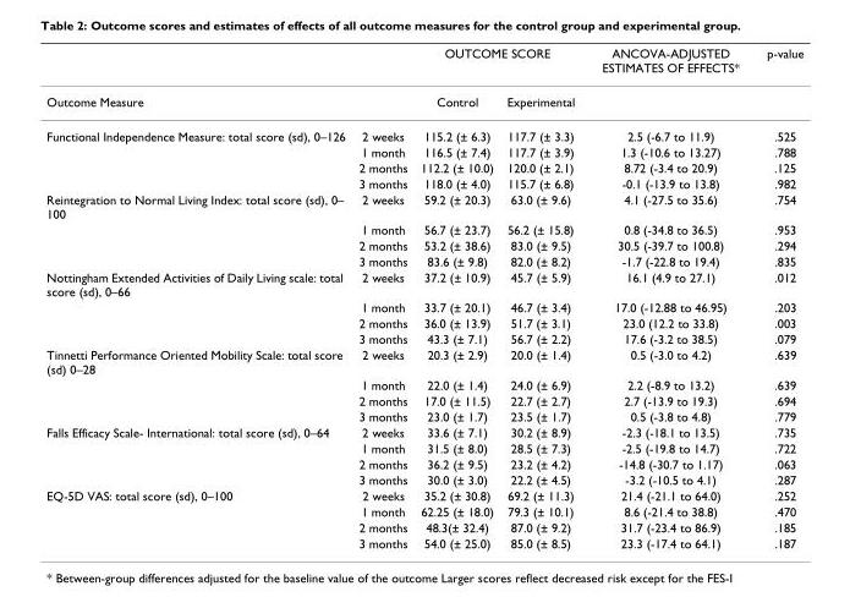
<table><thead><tr><td rowspan="2">Outcome Measure</td><td rowspan="2"></td><td colspan="2">OUTCOME SCORE</td><td rowspan="2">ANCOVA-ADJUSTED ESTIMATES OF EFFECTS*</td><td rowspan="2">p-value</td></tr><tr><td>Control</td><td>Experimental</td></tr></thead><tbody><tr><td rowspan="4">Functional Independence Measure: total score (sd), 0–126</td><td>2 weeks</td><td>115.2 (± 6.3)</td><td>117.7 (± 3.3)</td><td>2.5 (-6.7 to 11.9)</td><td>.525</td></tr><tr><td>1 month</td><td>116.5 (± 7.4)</td><td>117.7 (± 3.9)</td><td>1.3 (-10.6 to 13.27)</td><td>.788</td></tr><tr><td>2 months</td><td>112.2 (± 10.0)</td><td>120.0 (± 2.1)</td><td>8.72 (-3.4 to 20.9)</td><td>.125</td></tr><tr><td>3 months</td><td>118.0 (± 4.0)</td><td>115.7 (± 6.8)</td><td>-0.1 (-13.9 to 13.8)</td><td>.982</td></tr><tr><td rowspan="4">Reintegration to Normal Living Index: total score (sd), 0– 100</td><td>2 weeks</td><td>59.2 (± 20.3)</td><td>63.0 (± 9.6)</td><td>4.1 (-27.5 to 35.6)</td><td>.754</td></tr><tr><td>1 month</td><td>56.7 (± 23.7)</td><td>56.2 (± 15.8)</td><td>0.8 (-34.8 to 36.5)</td><td>.953</td></tr><tr><td>2 months</td><td>53.2 (± 38.6)</td><td>83.0 (± 9.5)</td><td>30.5 (-39.7 to 100.8)</td><td>.294</td></tr><tr><td>3 months</td><td>83.6 (± 9.8)</td><td>82.0 (± 8.2)</td><td>-1.7 (-22.8 to 19.4)</td><td>.835</td></tr><tr><td rowspan="4">Nottingham Extended Activities of Daily Living scale: total score (sd), 0–66</td><td>2 weeks</td><td>37.2 (± 10.9)</td><td>45.7 (± 5.9)</td><td>16.1 (4.9 to 27.1)</td><td>.012</td></tr><tr><td>1 month</td><td>33.7 (± 20.1)</td><td>46.7 (± 3.4)</td><td>17.0 (-12.88 to 46.95)</td><td>.203</td></tr><tr><td>2 months</td><td>36.0 (± 13.9)</td><td>51.7 (± 3.1)</td><td>23.0 (12.2 to 33.8)</td><td>.003</td></tr><tr><td>3 months</td><td>43.3 (± 7.1)</td><td>56.7 (± 2.2)</td><td>17.6 (-3.2 to 38.5)</td><td>.079</td></tr><tr><td rowspan="4">Tinnetti Performance Oriented Mobility Scale: total score (sd) 0–28</td><td>2 weeks</td><td>20.3 (± 2.9)</td><td>20.0 (± 1.4)</td><td>0.5 (-3.0 to 4.2)</td><td>.639</td></tr><tr><td>1 month</td><td>22.0 (± 1.4)</td><td>24.0 (± 6.9)</td><td>2.2 (-8.9 to 13.2)</td><td>.639</td></tr><tr><td>2 months</td><td>17.0 (± 11.5)</td><td>22.7 (± 2.7)</td><td>2.7 (-13.9 to 19.3)</td><td>.694</td></tr><tr><td>3 months</td><td>23.0 (± 1.7)</td><td>23.5 (± 1.7)</td><td>0.5 (-3.8 to 4.8)</td><td>.779</td></tr><tr><td rowspan="4">Falls Efficacy Scale- International: total score (sd), 0–64</td><td>2 weeks</td><td>33.6 (± 7.1)</td><td>30.2 (± 8.9)</td><td>-2.3 (-18.1 to 13.5)</td><td>.735</td></tr><tr><td>1 month</td><td>31.5 (± 8.0)</td><td>28.5 (± 7.3)</td><td>-2.5 (-19.8 to 14.7)</td><td>.722</td></tr><tr><td>2 months</td><td>36.2 (± 9.5)</td><td>23.2 (± 4.2)</td><td>-14.8 (-30.7 to 1.17)</td><td>.063</td></tr><tr><td>3 months</td><td>30.0 (± 3.0)</td><td>22.2 (± 4.5)</td><td>-3.2 (-10.5 to 4.1)</td><td>.287</td></tr><tr><td rowspan="4">EQ-5D VAS: total score (sd), 0–100</td><td>2 weeks</td><td>35.2 (± 30.8)</td><td>69.2 (± 11.3)</td><td>21.4 (-21.1 to 64.0)</td><td>.252</td></tr><tr><td>1 month</td><td>62.25 (± 18.0)</td><td>79.3 (± 10.1)</td><td>8.6 (-21.4 to 38.8)</td><td>.470</td></tr><tr><td>2 months</td><td>48.3(± 32.4)</td><td>87.0 (± 9.2)</td><td>31.7 (-23.4 to 86.9)</td><td>.185</td></tr><tr><td>3 months</td><td>54.0 (± 25.0)</td><td>85.0 (± 8.5)</td><td>23.3 (-17.4 to 64.1)</td><td>.187</td></tr></tbody></table>